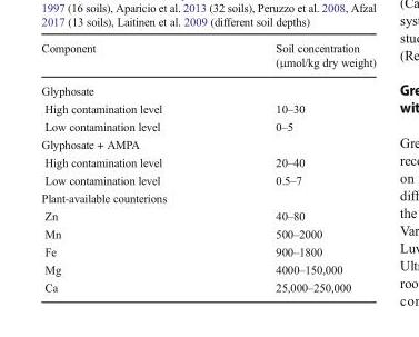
<table><thead><tr><td>Component</td><td>Soil concentration (μmol/kg dry weight)</td></tr></thead><tbody><tr><td colspan="2">Glyphosate</td></tr><tr><td>High contamination level</td><td>10–30</td></tr><tr><td>Low contamination level</td><td>0–5</td></tr><tr><td colspan="2">Glyphosate + AMPA</td></tr><tr><td>High contamination level</td><td>20–40</td></tr><tr><td>Low contamination level</td><td>0.5–7</td></tr><tr><td colspan="2">Plant-available counterions</td></tr><tr><td>Zn</td><td>40–80</td></tr><tr><td>Mn</td><td>500–2000</td></tr><tr><td>Fe</td><td>900–1800</td></tr><tr><td>Mg</td><td>4000–150,000</td></tr><tr><td>Ca</td><td>25,000–250,000</td></tr></tbody></table>